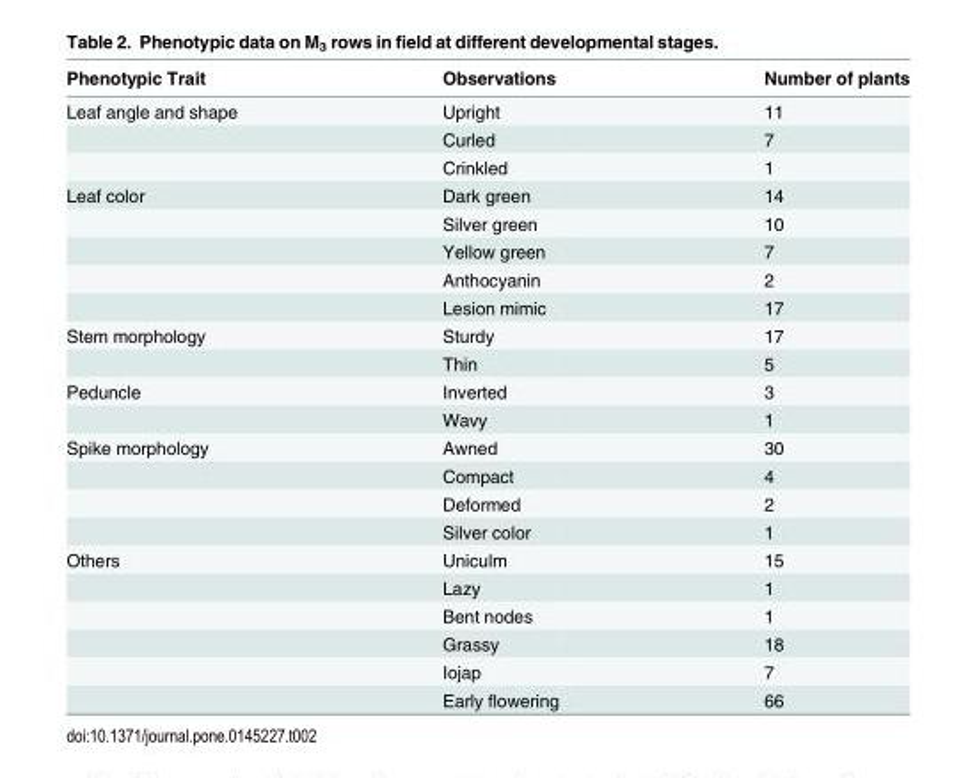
<table><thead><tr><td>Phenotypic Trait</td><td>Observations</td><td>Number of plants</td></tr></thead><tbody><tr><td rowspan="3">Leaf angle and shape</td><td>Upright</td><td>11</td></tr><tr><td>Curled</td><td>7</td></tr><tr><td>Crinkled</td><td>1</td></tr><tr><td rowspan="5">Leaf color</td><td>Dark green</td><td>14</td></tr><tr><td>Silver green</td><td>10</td></tr><tr><td>Yellow green</td><td>7</td></tr><tr><td>Anthocyanin</td><td>2</td></tr><tr><td>Lesion mimic</td><td>17</td></tr><tr><td rowspan="2">Stem morphology</td><td>Sturdy</td><td>17</td></tr><tr><td>Thin</td><td>5</td></tr><tr><td rowspan="2">Peduncle</td><td>Inverted</td><td>3</td></tr><tr><td>Wavy</td><td>1</td></tr><tr><td rowspan="4">Spike morphology</td><td>Awned</td><td>30</td></tr><tr><td>Compact</td><td>4</td></tr><tr><td>Deformed</td><td>2</td></tr><tr><td>Silver color</td><td>1</td></tr><tr><td rowspan="6">Others</td><td>Uniculm</td><td>15</td></tr><tr><td>Lazy</td><td>1</td></tr><tr><td>Bent nodes</td><td>1</td></tr><tr><td>Grassy</td><td>18</td></tr><tr><td>Iojap</td><td>7</td></tr><tr><td>Early flowering</td><td>66</td></tr></tbody></table>